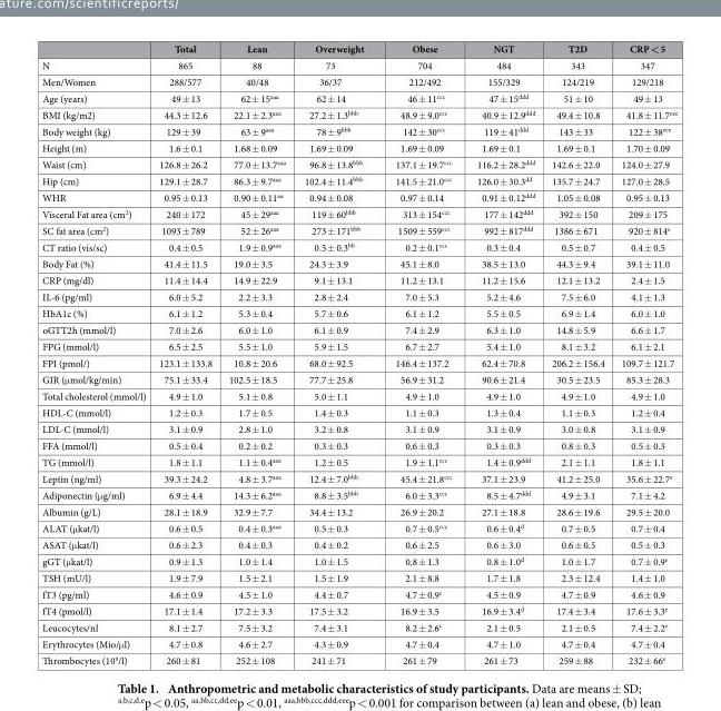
<table><thead><tr><td></td><td>Total</td><td>Lean</td><td>Overweight</td><td>Obese</td><td>NGT</td><td>T2D</td><td>CRP &lt; 5</td></tr></thead><tbody><tr><td>N</td><td>865</td><td>88</td><td>73</td><td>704</td><td>484</td><td>343</td><td>347</td></tr><tr><td>Men/Women</td><td>288/577</td><td>40/48</td><td>36/37</td><td>212/492</td><td>155/329</td><td>124/219</td><td>129/218</td></tr><tr><td>Age (years)</td><td>49 ± 13</td><td>62 ± 15aaa</td><td>62 ± 14</td><td>46 ± 11ccc</td><td>47 ± 15ddd</td><td>51 ± 10</td><td>49 ± 13</td></tr><tr><td>BMI (kg/m2)</td><td>44.3 ± 12.6</td><td>22.1 ± 2.3aaa</td><td>27.2 ± 1.3bbb</td><td>48.9 ± 9.0ccc</td><td>40.9 ± 12.9ddd</td><td>49.4 ± 10.8</td><td>41.8 ± 11.7eee</td></tr><tr><td>Body weight (kg)</td><td>129 ± 39</td><td>63 ± 9aaa</td><td>78 ± 9bbb</td><td>142 ± 30ccc</td><td>119 ± 41ddd</td><td>143 ± 33</td><td>122 ± 38eee</td></tr><tr><td>Height (m)</td><td>1.6 ± 0.1</td><td>1.68 ± 0.09</td><td>1.69 ± 0.09</td><td>1.69 ± 0.09</td><td>1.69 ± 0.1</td><td>1.69 ± 0.1</td><td>1.70 ± 0.09</td></tr><tr><td>Waist (cm)</td><td>126.8 ± 26.2</td><td>77.0 ± 13.7aaa</td><td>96.8 ± 13.8bbb</td><td>137.1 ± 19.7ccc</td><td>116.2 ± 28.2ddd</td><td>142.6 ± 22.0</td><td>124.0 ± 27.9</td></tr><tr><td>Hip (cm)</td><td>129.1 ± 28.7</td><td>86.3 ± 9.7aaa</td><td>102.4 ± 11.4bbb</td><td>141.5 ± 21.0ccc</td><td>126.0 ± 30.3<sup>dd</sup></td><td>135.7 ± 24.7</td><td>127.0 ± 28.5</td></tr><tr><td>WHR</td><td>0.95 ± 0.13</td><td>0.90 ± 0.11<sup>aa</sup></td><td>0.94 ± 0.08</td><td>0.97 ± 0.14</td><td>0.91 ± 0.12ddd</td><td>1.05 ± 0.08</td><td>0.95 ± 0.13</td></tr><tr><td>Visceral Fat area (cm<sup>2</sup>)</td><td>240 ± 172</td><td>45 ± 29aaa</td><td>119 ± 60bbb</td><td>313 ± 154ccc</td><td>177 ± 142ddd</td><td>392 ± 150</td><td>209 ± 175</td></tr><tr><td>SC fat area (cm<sup>2</sup>)</td><td>1093 ± 789</td><td>52 ± 26aaa</td><td>273 ± 171bbb</td><td>1509 ± 559ccc</td><td>992 ± 817ddd</td><td>1386 ± 671</td><td>920 ± 814<sup>e</sup></td></tr><tr><td>CT ratio (vis/sc)</td><td>0.4 ± 0.5</td><td>1.9 ± 0.9aaa</td><td>0.5 ± 0.3<sup>bb</sup></td><td>0.2 ± 0.1ccc</td><td>0.3 ± 0.4</td><td>0.5 ± 0.7</td><td>0.4 ± 0.5</td></tr><tr><td>Body Fat (%)</td><td>41.4 ± 11.5</td><td>19.0 ± 3.5</td><td>24.3 ± 3.9</td><td>45.1 ± 8.0</td><td>38.5 ± 13.0</td><td>44.3 ± 9.4</td><td>39.1 ± 11.0</td></tr><tr><td>CRP (mg/dl)</td><td>11.4 ± 14.4</td><td>14.9 ± 22.9</td><td>9.1 ± 13.1</td><td>11.2 ± 13.1</td><td>11.2 ± 15.6</td><td>12.1 ± 13.2</td><td>2.4 ± 1.5</td></tr><tr><td>IL-6 (pg/ml)</td><td>6.0 ± 5.2</td><td>2.2 ± 3.3</td><td>2.8 ± 2.4</td><td>7.0 ± 5.3</td><td>5.2 ± 4.6</td><td>7.5 ± 6.0</td><td>4.1 ± 1.3</td></tr><tr><td>HbA1c (%)</td><td>6.1 ± 1.2</td><td>5.3 ± 0.4</td><td>5.7 ± 0.6</td><td>6.1 ± 1.2</td><td>5.5 ± 0.5</td><td>6.9 ± 1.4</td><td>6.0 ± 1.0</td></tr><tr><td>oGTT2h (mmol/l)</td><td>7.0 ± 2.6</td><td>6.0 ± 1.0</td><td>6.1 ± 0.9</td><td>7.4 ± 2.9</td><td>6.3 ± 1.0</td><td>14.8 ± 5.9</td><td>6.6 ± 1.7</td></tr><tr><td>FPG (mmol/l)</td><td>6.5 ± 2.5</td><td>5.5 ± 1.0</td><td>5.9 ± 1.5</td><td>6.7 ± 2.7</td><td>5.4 ± 1.0</td><td>8.1 ± 3.2</td><td>6.1 ± 2.1</td></tr><tr><td>FPI (pmol/)</td><td>123.1 ± 133.8</td><td>10.8 ± 20.6</td><td>68.0 ± 92.5</td><td>146.4 ± 137.2</td><td>62.4 ± 70.8</td><td>206.2 ± 156.4</td><td>109.7 ± 121.7</td></tr><tr><td>GIR (μ mol/kg/min)</td><td>75.1 ± 33.4</td><td>102.5 ± 18.5</td><td>77.7 ± 25.8</td><td>56.9 ± 31.2</td><td>90.6 ± 21.4</td><td>30.5 ± 23.5</td><td>85.3 ± 28.3</td></tr><tr><td>Total cholesterol (mmol/l)</td><td>4.9 ± 1.0</td><td>5.1 ± 0.8</td><td>5.0 ± 1.1</td><td>4.9 ± 1.0</td><td>4.9 ± 1.0</td><td>4.9 ± 1.0</td><td>4.9 ± 1.0</td></tr><tr><td>HDL-C (mmol/l)</td><td>1.2 ± 0.3</td><td>1.7 ± 0.5</td><td>1.4 ± 0.3</td><td>1.1 ± 0.3</td><td>1.3 ± 0.4</td><td>1.1 ± 0.3</td><td>1.2 ± 0.4</td></tr><tr><td>LDL-C (mmol/l)</td><td>3.1 ± 0.9</td><td>2.8 ± 1.0</td><td>3.2 ± 0.8</td><td>3.1 ± 0.9</td><td>3.1 ± 0.9</td><td>3.0 ± 0.8</td><td>3.1 ± 0.9</td></tr><tr><td>FFA (mmol/l)</td><td>0.5 ± 0.4</td><td>0.2 ± 0.2</td><td>0.3 ± 0.3</td><td>0.6 ± 0.3</td><td>0.3 ± 0.3</td><td>0.8 ± 0.3</td><td>0.5 ± 0.3</td></tr><tr><td>TG (mmol/l)</td><td>1.8 ± 1.1</td><td>1.1 ± 0.4aaa</td><td>1.2 ± 0.5</td><td>1.9 ± 1.1ccc</td><td>1.4 ± 0.9ddd</td><td>2.1 ± 1.1</td><td>1.8 ± 1.1</td></tr><tr><td>Leptin (ng/ml)</td><td>39.3 ± 24.2</td><td>4.8 ± 3.7aaa</td><td>12.4 ± 7.0bbb</td><td>45.4 ± 21.8ccc</td><td>37.1 ± 23.9</td><td>41.2 ± 25.0</td><td>35.6 ± 22.7<sup>e</sup></td></tr><tr><td>Adiponectin (μ g/ml)</td><td>6.9 ± 4.4</td><td>14.3 ± 6.2aaa</td><td>8.8 ± 3.5bbb</td><td>6.0 ± 3.3ccc</td><td>8.5 ± 4.7ddd</td><td>4.9 ± 3.1</td><td>7.1 ± 4.2</td></tr><tr><td>Albumin (g/L)</td><td>28.1 ± 18.9</td><td>32.9 ± 7.7</td><td>34.4 ± 13.2</td><td>26.9 ± 20.2</td><td>27.1 ± 18.8</td><td>28.6 ± 19.6</td><td>29.5 ± 20.0</td></tr><tr><td>ALAT (μ kat/l)</td><td>0.6 ± 0.5</td><td>0.4 ± 0.3aaa</td><td>0.5 ± 0.3</td><td>0.7 ± 0.5ccc</td><td>0.6 ± 0.4<sup>d</sup></td><td>0.7 ± 0.5</td><td>0.7 ± 0.4</td></tr><tr><td>ASAT (μ kat/l)</td><td>0.6 ± 2.3</td><td>0.4 ± 0.3</td><td>0.4 ± 0.2</td><td>0.6 ± 2.5</td><td>0.6 ± 3.0</td><td>0.6 ± 0.5</td><td>0.5 ± 0.3</td></tr><tr><td>gGT (μ kat/l)</td><td>0.9 ± 1.3</td><td>1.0 ± 1.4</td><td>1.0 ± 1.5</td><td>0.8 ± 1.3</td><td>0.8 ± 1.0<sup>d</sup></td><td>1.0 ± 1.7</td><td>0.7 ± 0.9<sup>e</sup></td></tr><tr><td>TSH (mU/l)</td><td>1.9 ± 7.9</td><td>1.5 ± 2.1</td><td>1.5 ± 1.9</td><td>2.1 ± 8.8</td><td>1.7 ± 1.8</td><td>2.3 ± 12.4</td><td>1.4 ± 1.0</td></tr><tr><td>fT3 (pg/ml)</td><td>4.6 ± 0.9</td><td>4.5 ± 1.0</td><td>4.4 ± 0.7</td><td>4.7 ± 0.9<sup>c</sup></td><td>4.5 ± 0.9</td><td>4.7 ± 0.9</td><td>4.6 ± 0.9</td></tr><tr><td>fT4 (pmol/l)</td><td>17.1 ± 1.4</td><td>17.2 ± 3.3</td><td>17.5 ± 3.2</td><td>16.9 ± 3.5</td><td>16.9 ± 3.4<sup>d</sup></td><td>17.4 ± 3.4</td><td>17.6 ± 3.3<sup>e</sup></td></tr><tr><td>Leucocytes/nl</td><td>8.1 ± 2.7</td><td>7.5 ± 3.2</td><td>7.4 ± 3.1</td><td>8.2 ± 2.6<sup>c</sup></td><td>2.1 ± 0.5</td><td>2.1 ± 0.5</td><td>7.4 ± 2.2<sup>e</sup></td></tr><tr><td>Erythrocytes (Mio/μ l)</td><td>4.7 ± 0.8</td><td>4.6 ± 2.7</td><td>4.3 ± 0.9</td><td>4.7 ± 0.4</td><td>4.7 ± 1.0</td><td>4.7 ± 0.4</td><td>4.7 ± 0.4</td></tr><tr><td>Thrombocytes (10<sup>9</sup>/l)</td><td>260 ± 81</td><td>252 ± 108</td><td>241 ± 71</td><td>261 ± 79</td><td>261 ± 73</td><td>259 ± 88</td><td>232 ± 66<sup>e</sup></td></tr></tbody></table>